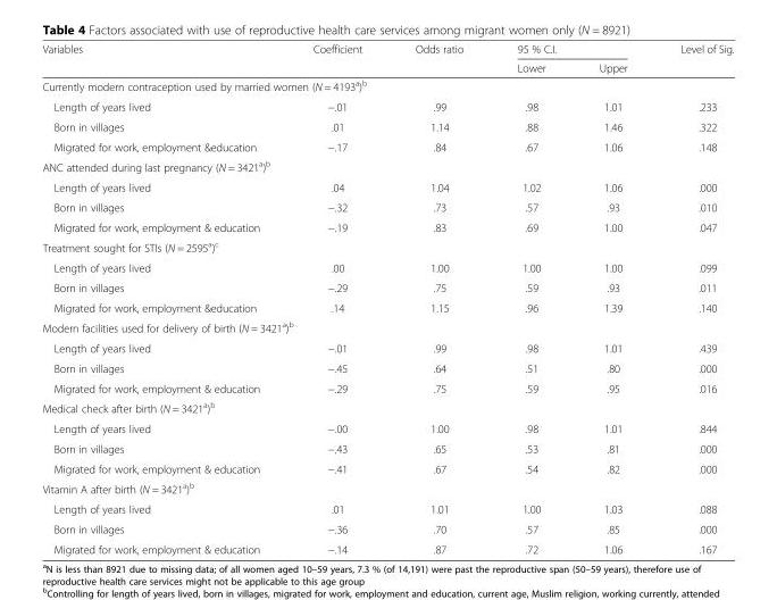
<table><thead><tr><td rowspan="2">Variables</td><td rowspan="2">Coefficient</td><td rowspan="2">Odds ratio</td><td colspan="2">95 % C.I.</td><td rowspan="2">Level of Sig.</td></tr><tr><td>Lower</td><td>Upper</td></tr></thead><tbody><tr><td colspan="6">Currently modern contraception used by married women (N = 4193<sup>a</sup>)<sup>b</sup></td></tr><tr><td>Length of years lived</td><td>−.01</td><td>.99</td><td>.98</td><td>1.01</td><td>.233</td></tr><tr><td>Born in villages</td><td>.01</td><td>1.14</td><td>.88</td><td>1.46</td><td>.322</td></tr><tr><td>Migrated for work, employment &amp;education</td><td>−.17</td><td>.84</td><td>.67</td><td>1.06</td><td>.148</td></tr><tr><td colspan="6">ANC attended during last pregnancy (N = 3421<sup>a</sup>)<sup>b</sup></td></tr><tr><td>Length of years lived</td><td>.04</td><td>1.04</td><td>1.02</td><td>1.06</td><td>.000</td></tr><tr><td>Born in villages</td><td>−.32</td><td>.73</td><td>.57</td><td>.93</td><td>.010</td></tr><tr><td>Migrated for work, employment &amp; education</td><td>−.19</td><td>.83</td><td>.69</td><td>1.00</td><td>.047</td></tr><tr><td colspan="6">Treatment sought for STIs (N = 2595<sup>a</sup>)<sup>c</sup></td></tr><tr><td>Length of years lived</td><td>.00</td><td>1.00</td><td>1.00</td><td>1.00</td><td>.099</td></tr><tr><td>Born in villages</td><td>−.29</td><td>.75</td><td>.59</td><td>.93</td><td>.011</td></tr><tr><td>Migrated for work, employment &amp;education</td><td>.14</td><td>1.15</td><td>.96</td><td>1.39</td><td>.140</td></tr><tr><td colspan="6">Modern facilities used for delivery of birth (N = 3421<sup>a</sup>)<sup>b</sup></td></tr><tr><td>Length of years lived</td><td>−.01</td><td>.99</td><td>.98</td><td>1.01</td><td>.439</td></tr><tr><td>Born in villages</td><td>−.45</td><td>.64</td><td>.51</td><td>.80</td><td>.000</td></tr><tr><td>Migrated for work, employment &amp; education</td><td>−.29</td><td>.75</td><td>.59</td><td>.95</td><td>.016</td></tr><tr><td colspan="6">Medical check after birth (N = 3421<sup>a</sup>)<sup>b</sup></td></tr><tr><td>Length of years lived</td><td>−.00</td><td>1.00</td><td>.98</td><td>1.01</td><td>.844</td></tr><tr><td>Born in villages</td><td>−.43</td><td>.65</td><td>.53</td><td>.81</td><td>.000</td></tr><tr><td>Migrated for work, employment &amp; education</td><td>−.41</td><td>.67</td><td>.54</td><td>.82</td><td>.000</td></tr><tr><td colspan="6">Vitamin A after birth (N = 3421<sup>a</sup>)<sup>b</sup></td></tr><tr><td>Length of years lived</td><td>.01</td><td>1.01</td><td>1.00</td><td>1.03</td><td>.088</td></tr><tr><td>Born in villages</td><td>−.36</td><td>.70</td><td>.57</td><td>.85</td><td>.000</td></tr><tr><td>Migrated for work, employment &amp; education</td><td>−.14</td><td>.87</td><td>.72</td><td>1.06</td><td>.167</td></tr></tbody></table>